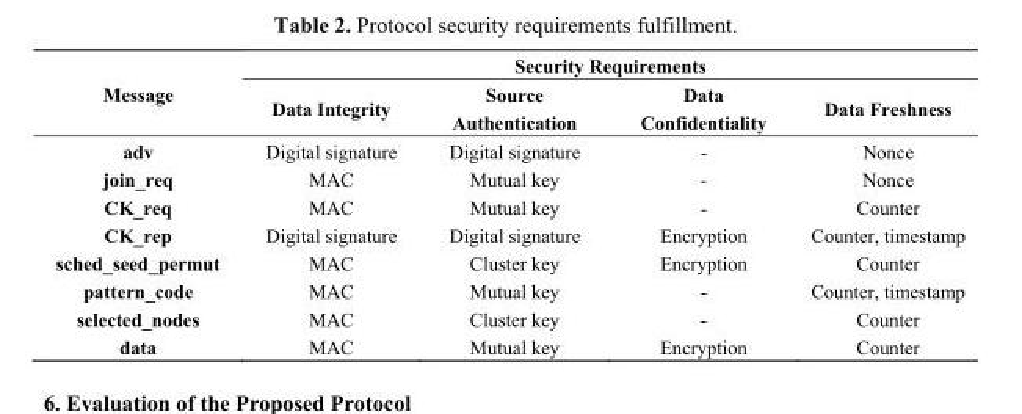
<table><thead><tr><td rowspan="2">Message</td><td colspan="4">Security Requirements</td></tr><tr><td>Data Integrity</td><td>Source Authentication</td><td>Data Confidentiality</td><td>Data Freshness</td></tr></thead><tbody><tr><td>adv</td><td>Digital signature</td><td>Digital signature</td><td>-</td><td>Nonce</td></tr><tr><td>join_req</td><td>MAC</td><td>Mutual key</td><td>-</td><td>Nonce</td></tr><tr><td>CK_req</td><td>MAC</td><td>Mutual key</td><td>-</td><td>Counter</td></tr><tr><td>CK_rep</td><td>Digital signature</td><td>Digital signature</td><td>Encryption</td><td>Counter, timestamp</td></tr><tr><td>sched_seed_permut</td><td>MAC</td><td>Cluster key</td><td>Encryption</td><td>Counter</td></tr><tr><td>pattern_code</td><td>MAC</td><td>Mutual key</td><td>-</td><td>Counter, timestamp</td></tr><tr><td>selected_nodes</td><td>MAC</td><td>Cluster key</td><td>-</td><td>Counter</td></tr><tr><td>data</td><td>MAC</td><td>Mutual key</td><td>Encryption</td><td>Counter</td></tr></tbody></table>